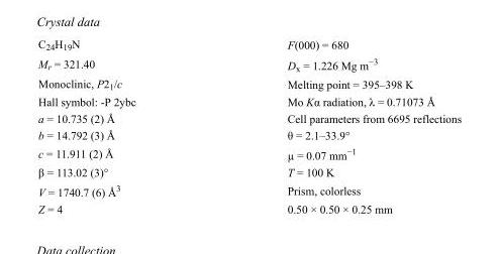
<table><tbody><tr><td>C<sub>24</sub>H<sub>19</sub>N</td><td>F(000) = 680</td></tr><tr><td>M<sub>r</sub> = 321.40</td><td>D<sub>x</sub> = 1.226 Mg m<sup>−3</sup></td></tr><tr><td>Monoclinic, P2<sub>1</sub>/c</td><td>Melting point = 395–398 K</td></tr><tr><td>Hall symbol: -P 2ybc</td><td>Mo Kα radiation, λ = 0.71073 Å</td></tr><tr><td>a = 10.735 (2) Å</td><td>Cell parameters from 6695 reflections</td></tr><tr><td>b = 14.792 (3) Å</td><td>θ = 2.1–33.9°</td></tr><tr><td>c = 11.911 (2) Å</td><td>µ = 0.07 mm<sup>−1</sup></td></tr><tr><td>β = 113.02 (3)°</td><td>T = 100 K</td></tr><tr><td>V = 1740.7 (6) Å<sup>3</sup></td><td>Prism, colorless</td></tr><tr><td>Z = 4</td><td>0.50 × 0.50 × 0.25 mm</td></tr></tbody></table>